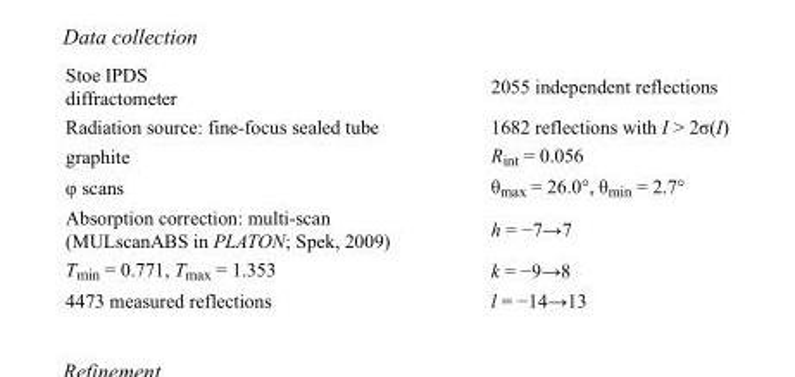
<table><tbody><tr><td>Stoe IPDS diffractometer</td><td>2055 independent reflections</td></tr><tr><td>Radiation source: fine-focus sealed tube</td><td>1682 reflections with I &gt; 2σ(I)</td></tr><tr><td>graphite</td><td>R<sub>int</sub> = 0.056</td></tr><tr><td>φ scans</td><td>θ<sub>max</sub> = 26.0°, θ<sub>min</sub> = 2.7°</td></tr><tr><td>Absorption correction: multi-scan (MULscanABS in PLATON; Spek, 2009)</td><td>h = −7→7</td></tr><tr><td>T<sub>min</sub> = 0.771, T<sub>max</sub> = 1.353</td><td>k = −9→8</td></tr><tr><td>4473 measured reflections</td><td>l = −14→13</td></tr></tbody></table>